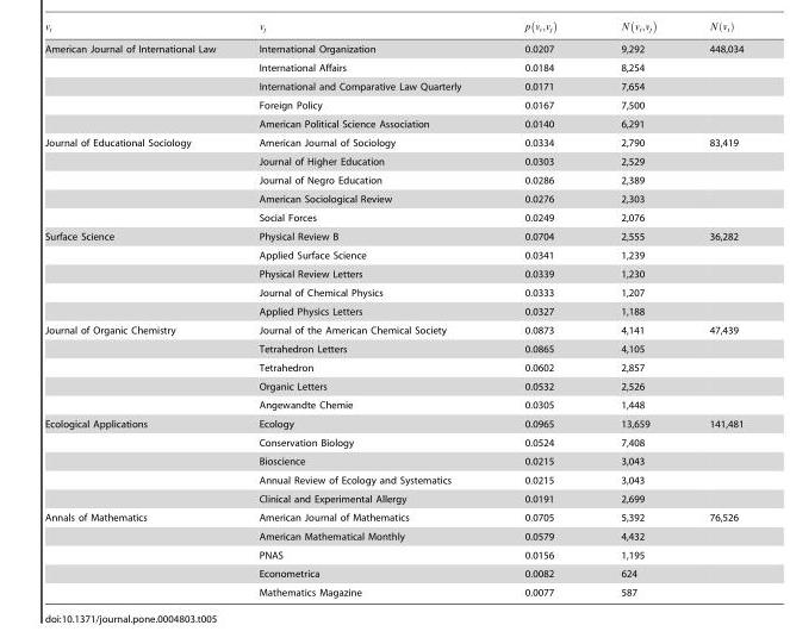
<table><tbody><tr><td rowspan="5">American Journal of International Law</td><td>International Organization</td><td>0.0207</td><td>9,292</td><td>448,034</td></tr><tr><td>International Affairs</td><td>0.0184</td><td>8,254</td><td></td></tr><tr><td>International and Comparative Law Quarterly</td><td>0.0171</td><td>7,654</td><td></td></tr><tr><td>Foreign Policy</td><td>0.0167</td><td>7,500</td><td></td></tr><tr><td>American Political Science Association</td><td>0.0140</td><td>6,291</td><td></td></tr><tr><td rowspan="5">Journal of Educational Sociology</td><td>American Journal of Sociology</td><td>0.0334</td><td>2,790</td><td>83,419</td></tr><tr><td>Journal of Higher Education</td><td>0.0303</td><td>2,529</td><td></td></tr><tr><td>Journal of Negro Education</td><td>0.0286</td><td>2,389</td><td></td></tr><tr><td>American Sociological Review</td><td>0.0276</td><td>2,303</td><td></td></tr><tr><td>Social Forces</td><td>0.0249</td><td>2,076</td><td></td></tr><tr><td rowspan="5">Surface Science</td><td>Physical Review B</td><td>0.0704</td><td>2,555</td><td>36,282</td></tr><tr><td>Applied Surface Science</td><td>0.0341</td><td>1,239</td><td></td></tr><tr><td>Physical Review Letters</td><td>0.0339</td><td>1,230</td><td></td></tr><tr><td>Journal of Chemical Physics</td><td>0.0333</td><td>1,207</td><td></td></tr><tr><td>Applied Physics Letters</td><td>0.0327</td><td>1,188</td><td></td></tr><tr><td rowspan="5">Journal of Organic Chemistry</td><td>Journal of the American Chemical Society</td><td>0.0873</td><td>4,141</td><td>47,439</td></tr><tr><td>Tetrahedron Letters</td><td>0.0865</td><td>4,105</td><td></td></tr><tr><td>Tetrahedron</td><td>0.0602</td><td>2,857</td><td></td></tr><tr><td>Organic Letters</td><td>0.0532</td><td>2,526</td><td></td></tr><tr><td>Angewandte Chemie</td><td>0.0305</td><td>1,448</td><td></td></tr><tr><td rowspan="5">Ecological Applications</td><td>Ecology</td><td>0.0965</td><td>13,659</td><td>141,481</td></tr><tr><td>Conservation Biology</td><td>0.0524</td><td>7,408</td><td></td></tr><tr><td>Bioscience</td><td>0.0215</td><td>3,043</td><td></td></tr><tr><td>Annual Review of Ecology and Systematics</td><td>0.0215</td><td>3,043</td><td></td></tr><tr><td>Clinical and Experimental Allergy</td><td>0.0191</td><td>2,699</td><td></td></tr><tr><td rowspan="5">Annals of Mathematics</td><td>American Journal of Mathematics</td><td>0.0705</td><td>5,392</td><td>76,526</td></tr><tr><td>American Mathematical Monthly</td><td>0.0579</td><td>4,432</td><td></td></tr><tr><td>PNAS</td><td>0.0156</td><td>1,195</td><td></td></tr><tr><td>Econometrica</td><td>0.0082</td><td>624</td><td></td></tr><tr><td>Mathematics Magazine</td><td>0.0077</td><td>587</td><td></td></tr></tbody></table>